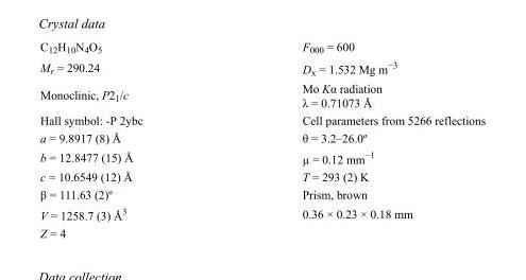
<table><tbody><tr><td>C<sub>12</sub>H<sub>10</sub>N<sub>4</sub>O<sub>5</sub></td><td>F<sub>000</sub> = 600</td></tr><tr><td>M<sub>r</sub> = 290.24</td><td>D<sub>x</sub> = 1.532 Mg m<sup>−3</sup></td></tr><tr><td>Monoclinic, P2<sub>1</sub>/c</td><td>Mo Kα radiation λ = 0.71073 Å</td></tr><tr><td>Hall symbol: -P 2ybc</td><td>Cell parameters from 5266 reflections</td></tr><tr><td>a = 9.8917 (8) Å</td><td>θ = 3.2–26.0º</td></tr><tr><td>b = 12.8477 (15) Å</td><td>µ = 0.12 mm<sup>−1</sup></td></tr><tr><td>c = 10.6549 (12) Å</td><td>T = 293 (2) K</td></tr><tr><td>β = 111.63 (2)º</td><td>Prism, brown</td></tr><tr><td>V = 1258.7 (3) Å<sup>3</sup></td><td>0.36 × 0.23 × 0.18 mm</td></tr><tr><td>Z = 4</td><td></td></tr></tbody></table>